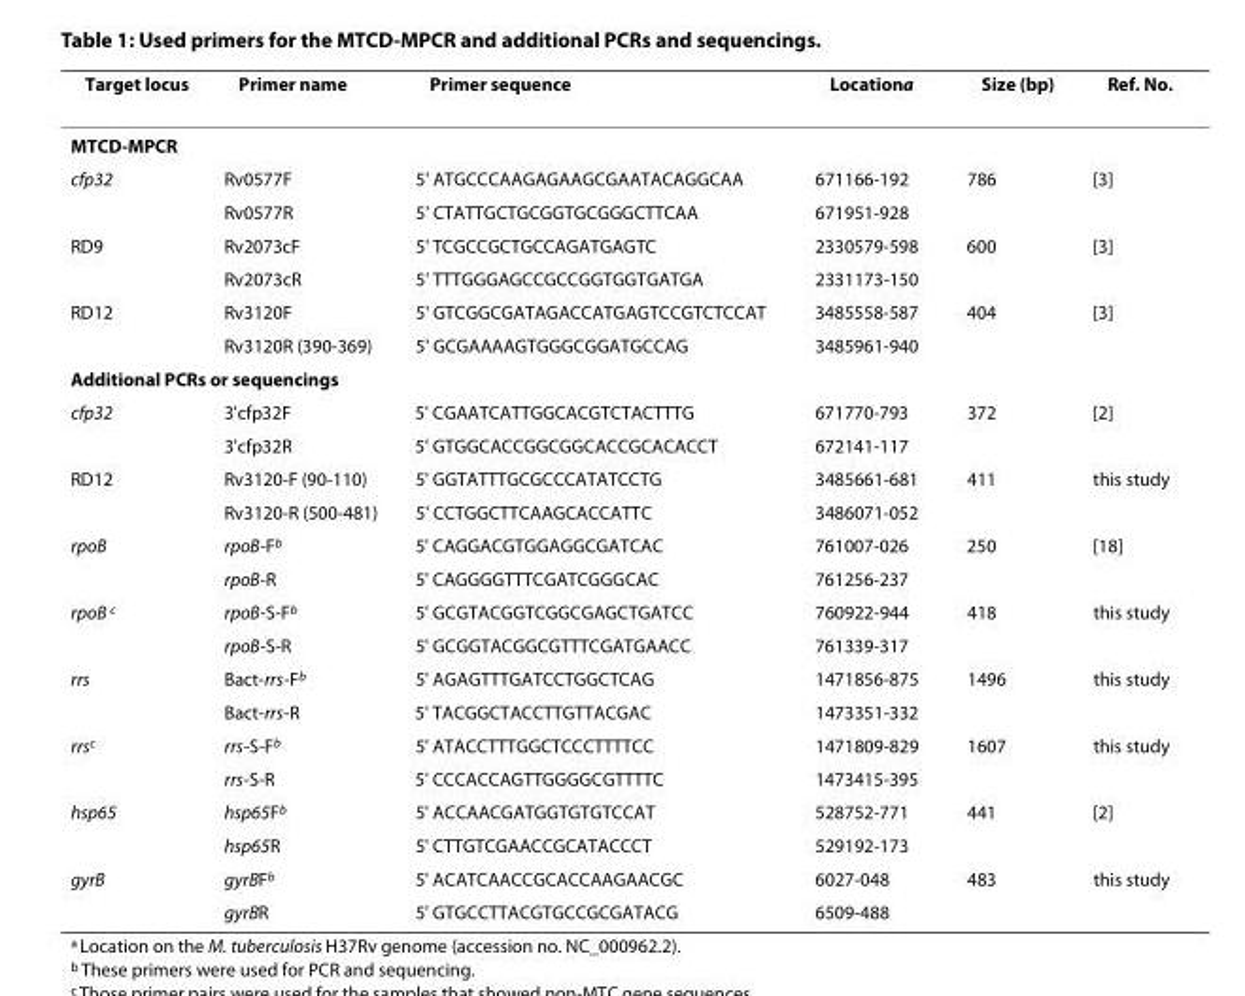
<table><thead><tr><td>Target locus</td><td>Primer name</td><td>Primer sequence</td><td>Location<sup>a</sup></td><td>Size (bp)</td><td>Ref. No.</td></tr></thead><tbody><tr><td colspan="6">MTCD-MPCR</td></tr><tr><td rowspan="2">cfp32</td><td>Rv0577F</td><td>5&#x27; ATGCCCAAGAGAAGCGAATACAGGCAA</td><td>671166-192</td><td>786</td><td>[3]</td></tr><tr><td>Rv0577R</td><td>5&#x27; CTATTGCTGCGGTGCGGGCTTCAA</td><td>671951-928</td><td></td><td></td></tr><tr><td rowspan="2">RD9</td><td>Rv2073cF</td><td>5&#x27; TCGCCGCTGCCAGATGAGTC</td><td>2330579-598</td><td>600</td><td>[3]</td></tr><tr><td>Rv2073cR</td><td>5&#x27; TTTGGGAGCCGCCGGTGGTGATGA</td><td>2331173-150</td><td></td><td></td></tr><tr><td rowspan="2">RD12</td><td>Rv3120F</td><td>5&#x27; GTCGGCGATAGACCATGAGTCCGTCTCCAT</td><td>3485558-587</td><td>404</td><td>[3]</td></tr><tr><td>Rv3120R (390-369)</td><td>5&#x27; GCGAAAAGTGGGCGGATGCCAG</td><td>3485961-940</td><td></td><td></td></tr><tr><td colspan="6">Additional PCRs or sequencings</td></tr><tr><td rowspan="2">cfp32</td><td>3&#x27;cfp32F</td><td>5&#x27; CGAATCATTGGCACGTCTACTTTG</td><td>671770-793</td><td>372</td><td>[2]</td></tr><tr><td>3&#x27;cfp32R</td><td>5&#x27; GTGGCACCGGCGGCACCGCACACCT</td><td>672141-117</td><td></td><td></td></tr><tr><td rowspan="2">RD12</td><td>Rv3120-F (90-110)</td><td>5&#x27; GGTATTTGCGCCCATATCCTG</td><td>3485661-681</td><td>411</td><td>this study</td></tr><tr><td>Rv3120-R (500-481)</td><td>5&#x27; CCTGGCTTCAAGCACCATTC</td><td>3486071-052</td><td></td><td></td></tr><tr><td rowspan="2">rpoB</td><td>rpoB-F<sup>b</sup></td><td>5&#x27; CAGGACGTGGAGGCGATCAC</td><td>761007-026</td><td>250</td><td>[18]</td></tr><tr><td>rpoB-R</td><td>5&#x27; CAGGGGTTTCGATCGGGCAC</td><td>761256-237</td><td></td><td></td></tr><tr><td rowspan="2">rpoB <sup>c</sup></td><td>rpoB-S-F<sup>b</sup></td><td>5&#x27; GCGTACGGTCGGCGAGCTGATCC</td><td>760922-944</td><td>418</td><td>this study</td></tr><tr><td>rpoB-S-R</td><td>5&#x27; GCGGTACGGCGTTTCGATGAACC</td><td>761339-317</td><td></td><td></td></tr><tr><td rowspan="2">rrs</td><td>Bact-rrs-F<sup>b</sup></td><td>5&#x27; AGAGTTTGATCCTGGCTCAG</td><td>1471856-875</td><td>1496</td><td>this study</td></tr><tr><td>Bact-rrs-R</td><td>5&#x27; TACGGCTACCTTGTTACGAC</td><td>1473351-332</td><td></td><td></td></tr><tr><td rowspan="2">rrs<sup>c</sup></td><td>rrs-S-F<sup>b</sup></td><td>5&#x27; ATACCTTTGGCTCCCTTTTCC</td><td>1471809-829</td><td>1607</td><td>this study</td></tr><tr><td>rrs-S-R</td><td>5&#x27; CCCACCAGTTGGGGCGTTTTC</td><td>1473415-395</td><td></td><td></td></tr><tr><td rowspan="2">hsp65</td><td>hsp65F<sup>b</sup></td><td>5&#x27; ACCAACGATGGTGTGTCCAT</td><td>528752-771</td><td>441</td><td>[2]</td></tr><tr><td>hsp65R</td><td>5&#x27; CTTGTCGAACCGCATACCCT</td><td>529192-173</td><td></td><td></td></tr><tr><td rowspan="2">gyrB</td><td>gyrBF<sup>b</sup></td><td>5&#x27; ACATCAACCGCACCAAGAACGC</td><td>6027-048</td><td>483</td><td>this study</td></tr><tr><td>gyrBR</td><td>5&#x27; GTGCCTTACGTGCCGCGATACG</td><td>6509-488</td><td></td><td></td></tr></tbody></table>